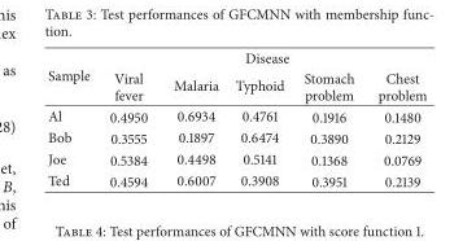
<table><thead><tr><td rowspan="2">Sample</td><td colspan="5">Disease</td></tr><tr><td>Viral fever</td><td>Malaria</td><td>Typhoid</td><td>Stomach problem</td><td>Chest problem</td></tr></thead><tbody><tr><td>Al</td><td>0.4950</td><td>0.6934</td><td>0.4761</td><td>0.1916</td><td>0.1480</td></tr><tr><td>Bob</td><td>0.3555</td><td>0.1897</td><td>0.6474</td><td>0.3890</td><td>0.2129</td></tr><tr><td>Joe</td><td>0.5384</td><td>0.4498</td><td>0.5141</td><td>0.1368</td><td>0.0769</td></tr><tr><td>Ted</td><td>0.4594</td><td>0.6007</td><td>0.3908</td><td>0.3951</td><td>0.2139</td></tr></tbody></table>